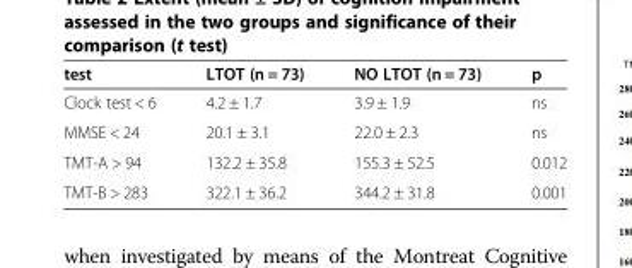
<table><thead><tr><td>test</td><td>LTOT (n = 73)</td><td>NO LTOT (n = 73)</td><td>p</td></tr></thead><tbody><tr><td>Clock test &lt; 6</td><td>4.2 ± 1.7</td><td>3.9 ± 1.9</td><td>ns</td></tr><tr><td>MMSE &lt; 24</td><td>20.1 ± 3.1</td><td>22.0 ± 2.3</td><td>ns</td></tr><tr><td>TMT-A &gt; 94</td><td>132.2 ± 35.8</td><td>155.3 ± 52.5</td><td>0.012</td></tr><tr><td>TMT-B &gt; 283</td><td>322.1 ± 36.2</td><td>344.2 ± 31.8</td><td>0.001</td></tr></tbody></table>